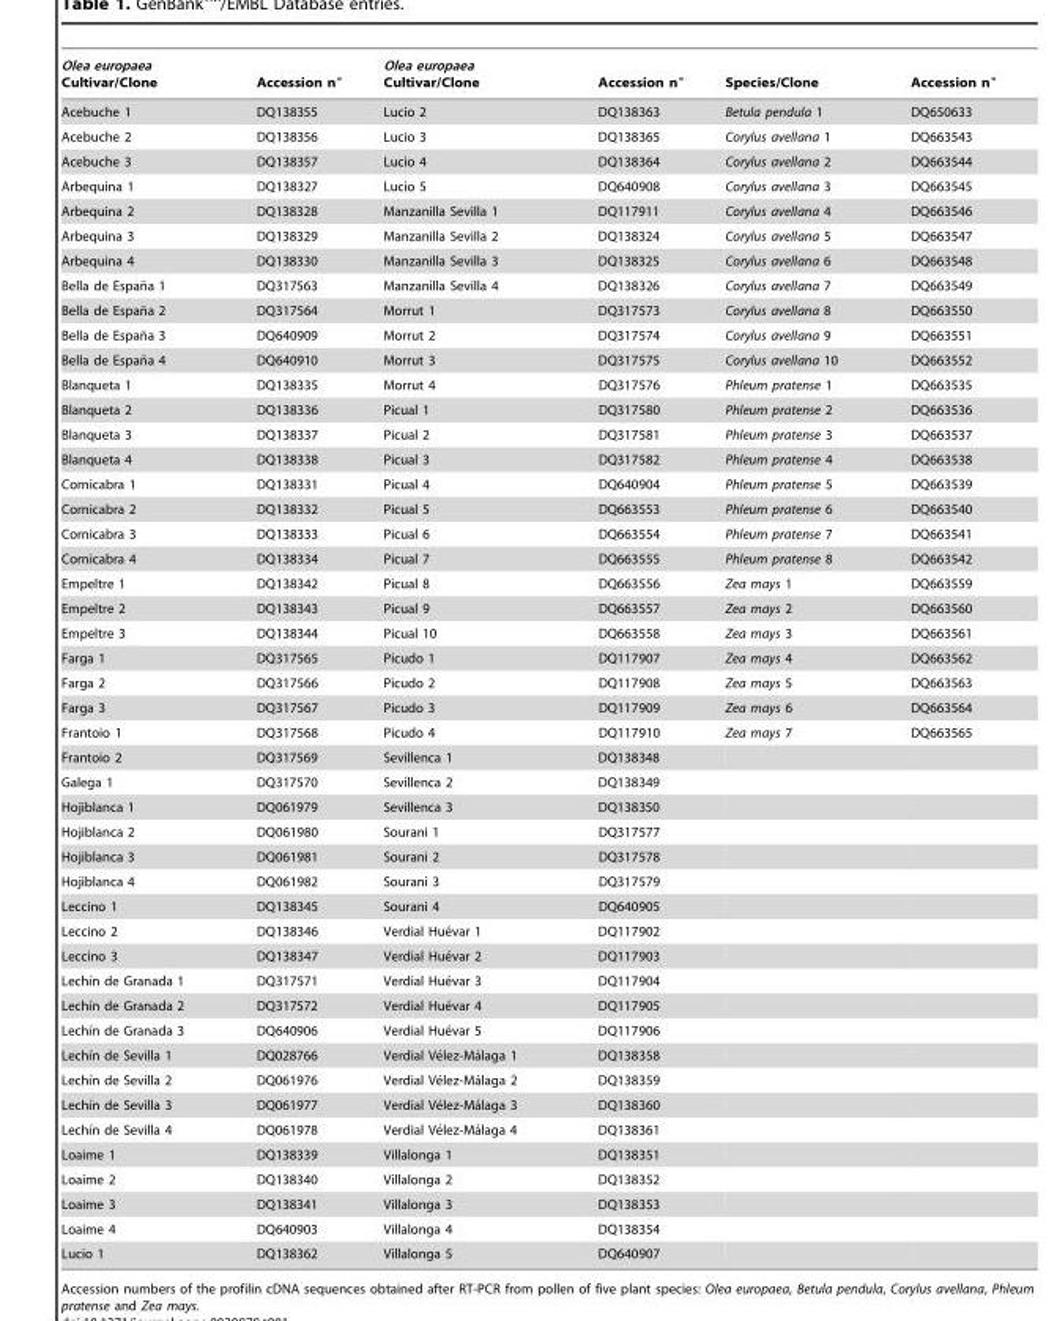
<table><thead><tr><td>Olea europaea Cultivar/Clone</td><td>Accession n°</td><td>Olea europaea Cultivar/Clone</td><td>Accession n°</td><td>Species/Clone</td><td>Accession n°</td></tr></thead><tbody><tr><td>Acebuche 1</td><td>DQ138355</td><td>Lucio 2</td><td>DQ138363</td><td>Betula pendula 1</td><td>DQ650633</td></tr><tr><td>Acebuche 2</td><td>DQ138356</td><td>Lucio 3</td><td>DQ138365</td><td>Corylus avellana 1</td><td>DQ663543</td></tr><tr><td>Acebuche 3</td><td>DQ138357</td><td>Lucio 4</td><td>DQ138364</td><td>Corylus avellana 2</td><td>DQ663544</td></tr><tr><td>Arbequina 1</td><td>DQ138327</td><td>Lucio 5</td><td>DQ640908</td><td>Corylus avellana 3</td><td>DQ663545</td></tr><tr><td>Arbequina 2</td><td>DQ138328</td><td>Manzanilla Sevilla 1</td><td>DQ117911</td><td>Corylus avellana 4</td><td>DQ663546</td></tr><tr><td>Arbequina 3</td><td>DQ138329</td><td>Manzanilla Sevilla 2</td><td>DQ138324</td><td>Corylus avellana 5</td><td>DQ663547</td></tr><tr><td>Arbequina 4</td><td>DQ138330</td><td>Manzanilla Sevilla 3</td><td>DQ138325</td><td>Corylus avellana 6</td><td>DQ663548</td></tr><tr><td>Bella de Espan˜a 1</td><td>DQ317563</td><td>Manzanilla Sevilla 4</td><td>DQ138326</td><td>Corylus avellana 7</td><td>DQ663549</td></tr><tr><td>Bella de Espan˜a 2</td><td>DQ317564</td><td>Morrut 1</td><td>DQ317573</td><td>Corylus avellana 8</td><td>DQ663550</td></tr><tr><td>Bella de Espan˜a 3</td><td>DQ640909</td><td>Morrut 2</td><td>DQ317574</td><td>Corylus avellana 9</td><td>DQ663551</td></tr><tr><td>Bella de Espan˜a 4</td><td>DQ640910</td><td>Morrut 3</td><td>DQ317575</td><td>Corylus avellana 10</td><td>DQ663552</td></tr><tr><td>Blanqueta 1</td><td>DQ138335</td><td>Morrut 4</td><td>DQ317576</td><td>Phleum pratense 1</td><td>DQ663535</td></tr><tr><td>Blanqueta 2</td><td>DQ138336</td><td>Picual 1</td><td>DQ317580</td><td>Phleum pratense 2</td><td>DQ663536</td></tr><tr><td>Blanqueta 3</td><td>DQ138337</td><td>Picual 2</td><td>DQ317581</td><td>Phleum pratense 3</td><td>DQ663537</td></tr><tr><td>Blanqueta 4</td><td>DQ138338</td><td>Picual 3</td><td>DQ317582</td><td>Phleum pratense 4</td><td>DQ663538</td></tr><tr><td>Cornicabra 1</td><td>DQ138331</td><td>Picual 4</td><td>DQ640904</td><td>Phleum pratense 5</td><td>DQ663539</td></tr><tr><td>Cornicabra 2</td><td>DQ138332</td><td>Picual 5</td><td>DQ663553</td><td>Phleum pratense 6</td><td>DQ663540</td></tr><tr><td>Cornicabra 3</td><td>DQ138333</td><td>Picual 6</td><td>DQ663554</td><td>Phleum pratense 7</td><td>DQ663541</td></tr><tr><td>Cornicabra 4</td><td>DQ138334</td><td>Picual 7</td><td>DQ663555</td><td>Phleum pratense 8</td><td>DQ663542</td></tr><tr><td>Empeltre 1</td><td>DQ138342</td><td>Picual 8</td><td>DQ663556</td><td>Zea mays 1</td><td>DQ663559</td></tr><tr><td>Empeltre 2</td><td>DQ138343</td><td>Picual 9</td><td>DQ663557</td><td>Zea mays 2</td><td>DQ663560</td></tr><tr><td>Empeltre 3</td><td>DQ138344</td><td>Picual 10</td><td>DQ663558</td><td>Zea mays 3</td><td>DQ663561</td></tr><tr><td>Farga 1</td><td>DQ317565</td><td>Picudo 1</td><td>DQ117907</td><td>Zea mays 4</td><td>DQ663562</td></tr><tr><td>Farga 2</td><td>DQ317566</td><td>Picudo 2</td><td>DQ117908</td><td>Zea mays 5</td><td>DQ663563</td></tr><tr><td>Farga 3</td><td>DQ317567</td><td>Picudo 3</td><td>DQ117909</td><td>Zea mays 6</td><td>DQ663564</td></tr><tr><td>Frantoio 1</td><td>DQ317568</td><td>Picudo 4</td><td>DQ117910</td><td>Zea mays 7</td><td>DQ663565</td></tr><tr><td>Frantoio 2</td><td>DQ317569</td><td>Sevillenca 1</td><td>DQ138348</td><td></td><td></td></tr><tr><td>Galega 1</td><td>DQ317570</td><td>Sevillenca 2</td><td>DQ138349</td><td></td><td></td></tr><tr><td>Hojiblanca 1</td><td>DQ061979</td><td>Sevillenca 3</td><td>DQ138350</td><td></td><td></td></tr><tr><td>Hojiblanca 2</td><td>DQ061980</td><td>Sourani 1</td><td>DQ317577</td><td></td><td></td></tr><tr><td>Hojiblanca 3</td><td>DQ061981</td><td>Sourani 2</td><td>DQ317578</td><td></td><td></td></tr><tr><td>Hojiblanca 4</td><td>DQ061982</td><td>Sourani 3</td><td>DQ317579</td><td></td><td></td></tr><tr><td>Leccino 1</td><td>DQ138345</td><td>Sourani 4</td><td>DQ640905</td><td></td><td></td></tr><tr><td>Leccino 2</td><td>DQ138346</td><td>Verdial Hue´var 1</td><td>DQ117902</td><td></td><td></td></tr><tr><td>Leccino 3</td><td>DQ138347</td><td>Verdial Hue´var 2</td><td>DQ117903</td><td></td><td></td></tr><tr><td>Lechı´n de Granada 1</td><td>DQ317571</td><td>Verdial Hue´var 3</td><td>DQ117904</td><td></td><td></td></tr><tr><td>Lechı´n de Granada 2</td><td>DQ317572</td><td>Verdial Hue´var 4</td><td>DQ117905</td><td></td><td></td></tr><tr><td>Lechı´n de Granada 3</td><td>DQ640906</td><td>Verdial Hue´var 5</td><td>DQ117906</td><td></td><td></td></tr><tr><td>Lechı´n de Sevilla 1</td><td>DQ028766</td><td>Verdial Ve´lez-Ma´laga 1</td><td>DQ138358</td><td></td><td></td></tr><tr><td>Lechı´n de Sevilla 2</td><td>DQ061976</td><td>Verdial Ve´lez-Ma´laga 2</td><td>DQ138359</td><td></td><td></td></tr><tr><td>Lechı´n de Sevilla 3</td><td>DQ061977</td><td>Verdial Ve´lez-Ma´laga 3</td><td>DQ138360</td><td></td><td></td></tr><tr><td>Lechı´n de Sevilla 4</td><td>DQ061978</td><td>Verdial Ve´lez-Ma´laga 4</td><td>DQ138361</td><td></td><td></td></tr><tr><td>Loaime 1</td><td>DQ138339</td><td>Villalonga 1</td><td>DQ138351</td><td></td><td></td></tr><tr><td>Loaime 2</td><td>DQ138340</td><td>Villalonga 2</td><td>DQ138352</td><td></td><td></td></tr><tr><td>Loaime 3</td><td>DQ138341</td><td>Villalonga 3</td><td>DQ138353</td><td></td><td></td></tr><tr><td>Loaime 4</td><td>DQ640903</td><td>Villalonga 4</td><td>DQ138354</td><td></td><td></td></tr><tr><td>Lucio 1</td><td>DQ138362</td><td>Villalonga 5</td><td>DQ640907</td><td></td><td></td></tr></tbody></table>